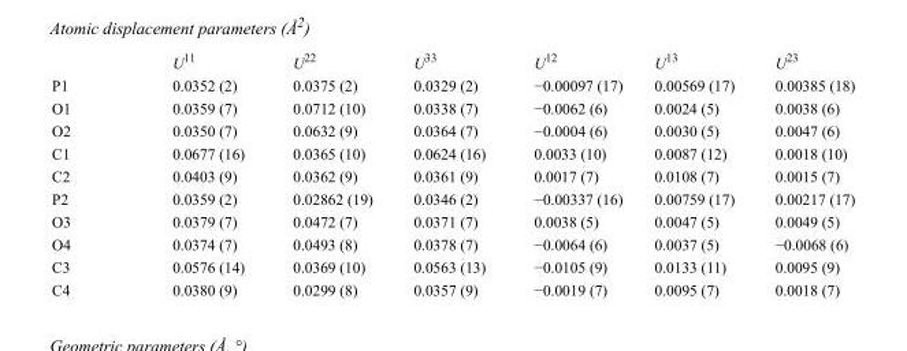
<table><thead><tr><td></td><td>U<sup>11</sup></td><td>U<sup>22</sup></td><td>U<sup>33</sup></td><td>U<sup>12</sup></td><td>U<sup>13</sup></td><td>U<sup>23</sup></td></tr></thead><tbody><tr><td>P1</td><td>0.0352 (2)</td><td>0.0375 (2)</td><td>0.0329 (2)</td><td>−0.00097 (17)</td><td>0.00569 (17)</td><td>0.00385 (18)</td></tr><tr><td>O1</td><td>0.0359 (7)</td><td>0.0712 (10)</td><td>0.0338 (7)</td><td>−0.0062 (6)</td><td>0.0024 (5)</td><td>0.0038 (6)</td></tr><tr><td>O2</td><td>0.0350 (7)</td><td>0.0632 (9)</td><td>0.0364 (7)</td><td>−0.0004 (6)</td><td>0.0030 (5)</td><td>0.0047 (6)</td></tr><tr><td>C1</td><td>0.0677 (16)</td><td>0.0365 (10)</td><td>0.0624 (16)</td><td>0.0033 (10)</td><td>0.0087 (12)</td><td>0.0018 (10)</td></tr><tr><td>C2</td><td>0.0403 (9)</td><td>0.0362 (9)</td><td>0.0361 (9)</td><td>0.0017 (7)</td><td>0.0108 (7)</td><td>0.0015 (7)</td></tr><tr><td>P2</td><td>0.0359 (2)</td><td>0.02862 (19)</td><td>0.0346 (2)</td><td>−0.00337 (16)</td><td>0.00759 (17)</td><td>0.00217 (17)</td></tr><tr><td>O3</td><td>0.0379 (7)</td><td>0.0472 (7)</td><td>0.0371 (7)</td><td>0.0038 (5)</td><td>0.0047 (5)</td><td>0.0049 (5)</td></tr><tr><td>O4</td><td>0.0374 (7)</td><td>0.0493 (8)</td><td>0.0378 (7)</td><td>−0.0064 (6)</td><td>0.0037 (5)</td><td>−0.0068 (6)</td></tr><tr><td>C3</td><td>0.0576 (14)</td><td>0.0369 (10)</td><td>0.0563 (13)</td><td>−0.0105 (9)</td><td>0.0133 (11)</td><td>0.0095 (9)</td></tr><tr><td>C4</td><td>0.0380 (9)</td><td>0.0299 (8)</td><td>0.0357 (9)</td><td>−0.0019 (7)</td><td>0.0095 (7)</td><td>0.0018 (7)</td></tr></tbody></table>